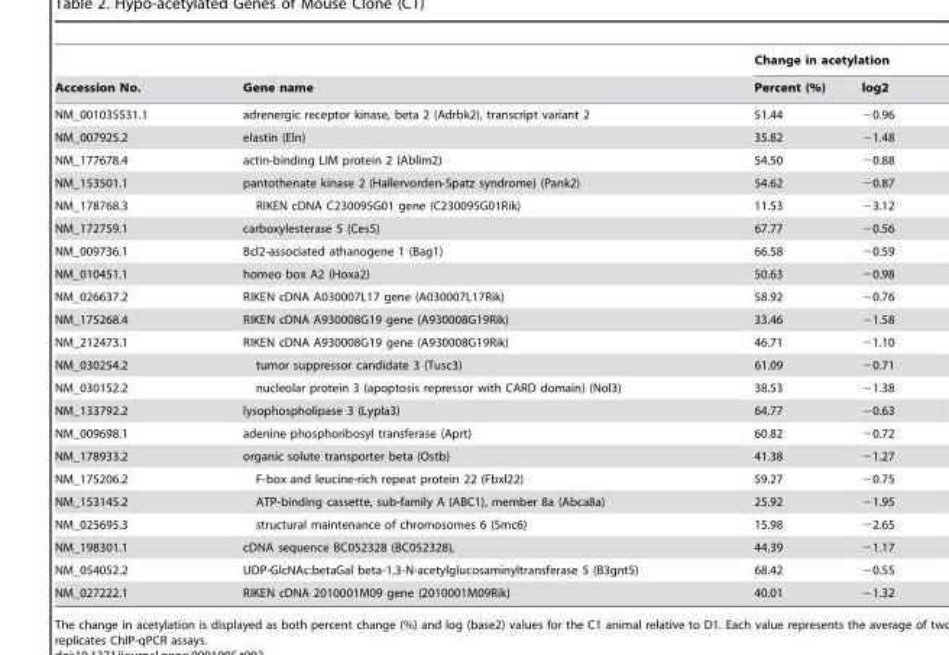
<table><thead><tr><td rowspan="2">Accession No.</td><td rowspan="2">Gene name</td><td colspan="2">Change in acetylation</td></tr><tr><td>Percent (%)</td><td>log2</td></tr></thead><tbody><tr><td>NM_001035531.1</td><td>adrenergic receptor kinase, beta 2 (Adrbk2), transcript variant 2</td><td>51.44</td><td>−0.96</td></tr><tr><td>NM_007925.2</td><td>elastin (Eln)</td><td>35.82</td><td>−1.48</td></tr><tr><td>NM_177678.4</td><td>actin-binding LIM protein 2 (Ablim2)</td><td>54.50</td><td>−0.88</td></tr><tr><td>NM_153501.1</td><td>pantothenate kinase 2 (Hallervorden-Spatz syndrome) (Pank2)</td><td>54.62</td><td>−0.87</td></tr><tr><td>NM_178768.3</td><td>RIKEN cDNA C230095G01 gene (C230095G01Rik)</td><td>11.53</td><td>−3.12</td></tr><tr><td>NM_172759.1</td><td>carboxylesterase 5 (Ces5)</td><td>67.77</td><td>−0.56</td></tr><tr><td>NM_009736.1</td><td>Bcl2-associated athanogene 1 (Bag1)</td><td>66.58</td><td>−0.59</td></tr><tr><td>NM_010451.1</td><td>homeo box A2 (Hoxa2)</td><td>50.63</td><td>−0.98</td></tr><tr><td>NM_026637.2</td><td>RIKEN cDNA A030007L17 gene (A030007L17Rik)</td><td>58.92</td><td>−0.76</td></tr><tr><td>NM_175268.4</td><td>RIKEN cDNA A930008G19 gene (A930008G19Rik)</td><td>33.46</td><td>−1.58</td></tr><tr><td>NM_212473.1</td><td>RIKEN cDNA A930008G19 gene (A930008G19Rik)</td><td>46.71</td><td>−1.10</td></tr><tr><td>NM_030254.2</td><td>tumor suppressor candidate 3 (Tusc3)</td><td>61.09</td><td>−0.71</td></tr><tr><td>NM_030152.2</td><td>nucleolar protein 3 (apoptosis repressor with CARD domain) (Nol3)</td><td>38.53</td><td>−1.38</td></tr><tr><td>NM_133792.2</td><td>lysophospholipase 3 (Lypla3)</td><td>64.77</td><td>−0.63</td></tr><tr><td>NM_009698.1</td><td>adenine phosphoribosyl transferase (Aprt)</td><td>60.82</td><td>−0.72</td></tr><tr><td>NM_178933.2</td><td>organic solute transporter beta (Ostb)</td><td>41.38</td><td>−1.27</td></tr><tr><td>NM_175206.2</td><td>F-box and leucine-rich repeat protein 22 (Fbxl22)</td><td>59.27</td><td>−0.75</td></tr><tr><td>NM_153145.2</td><td>ATP-binding cassette, sub-family A (ABC1), member 8a (Abca8a)</td><td>25.92</td><td>−1.95</td></tr><tr><td>NM_025695.3</td><td>structural maintenance of chromosomes 6 (Smc6)</td><td>15.98</td><td>−2.65</td></tr><tr><td>NM_198301.1</td><td>cDNA sequence BC052328 (BC052328),</td><td>44.39</td><td>−1.17</td></tr><tr><td>NM_054052.2</td><td>UDP-GlcNAc:betaGal beta-1,3-N-acetylglucosaminyltransferase 5 (B3gnt5)</td><td>68.42</td><td>−0.55</td></tr><tr><td>NM_027222.1</td><td>RIKEN cDNA 2010001M09 gene (2010001M09Rik)</td><td>40.01</td><td>−1.32</td></tr></tbody></table>